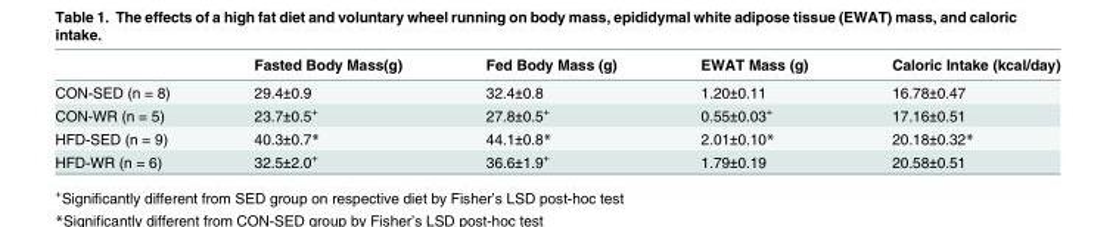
<table><thead><tr><td></td><td>Fasted Body Mass(g)</td><td>Fed Body Mass (g)</td><td>EWAT Mass (g)</td><td>Caloric Intake (kcal/day)</td></tr></thead><tbody><tr><td>CON-SED (n = 8)</td><td>29.4±0.9</td><td>32.4±0.8</td><td>1.20±0.11</td><td>16.78±0.47</td></tr><tr><td>CON-WR (n = 5)</td><td>23.7±0.5<sup>+</sup></td><td>27.8±0.5<sup>+</sup></td><td>0.55±0.03<sup>+</sup></td><td>17.16±0.51</td></tr><tr><td>HFD-SED (n = 9)</td><td>40.3±0.7*</td><td>44.1±0.8*</td><td>2.01±0.10*</td><td>20.18±0.32*</td></tr><tr><td>HFD-WR (n = 6)</td><td>32.5±2.0<sup>+</sup></td><td>36.6±1.9<sup>+</sup></td><td>1.79±0.19</td><td>20.58±0.51</td></tr></tbody></table>